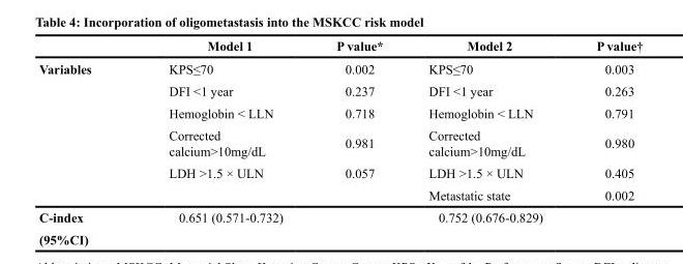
<table><thead><tr><td></td><td>Model 1</td><td>P value*</td><td>Model 2</td><td>P value†</td></tr></thead><tbody><tr><td rowspan="6">Variables</td><td>KPS≤70</td><td>0.002</td><td>KPS≤70</td><td>0.003</td></tr><tr><td>DFI &lt;1 year</td><td>0.237</td><td>DFI &lt;1 year</td><td>0.263</td></tr><tr><td>Hemoglobin &lt; LLN</td><td>0.718</td><td>Hemoglobin &lt; LLN</td><td>0.791</td></tr><tr><td>Corrected calcium&gt;10mg/dL</td><td>0.981</td><td>Corrected calcium&gt;10mg/dL</td><td>0.980</td></tr><tr><td>LDH &gt;1.5 × ULN</td><td>0.057</td><td>LDH &gt;1.5 × ULN</td><td>0.405</td></tr><tr><td></td><td></td><td>Metastatic state</td><td>0.002</td></tr><tr><td>C-index</td><td>0.651 (0.571-0.732)</td><td></td><td>0.752 (0.676-0.829)</td><td></td></tr></tbody></table>